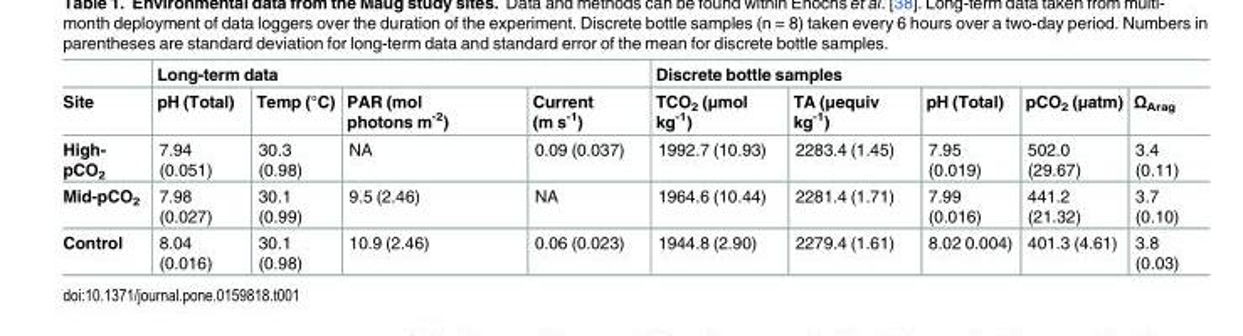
<table><thead><tr><td rowspan="2">Site</td><td colspan="4">Long-term data</td><td colspan="5">Discrete bottle samples</td></tr><tr><td>pH (Total)</td><td>Temp (°C)</td><td>PAR (mol photons m<sup>-2</sup>)</td><td>Current (m s<sup>-1</sup>)</td><td>TCO<sub>2</sub> (μmol kg<sup>-1</sup>)</td><td>TA (μequiv kg<sup>-1</sup>)</td><td>pH (Total)</td><td>pCO<sub>2</sub> (μatm)</td><td>Ω<sub>Arag</sub></td></tr></thead><tbody><tr><td>High- pCO<sub>2</sub></td><td>7.94 (0.051)</td><td>30.3 (0.98)</td><td>NA</td><td>0.09 (0.037)</td><td>1992.7 (10.93)</td><td>2283.4 (1.45)</td><td>7.95 (0.019)</td><td>502.0 (29.67)</td><td>3.4 (0.11)</td></tr><tr><td>Mid-pCO<sub>2</sub></td><td>7.98 (0.027)</td><td>30.1 (0.99)</td><td>9.5 (2.46)</td><td>NA</td><td>1964.6 (10.44)</td><td>2281.4 (1.71)</td><td>7.99 (0.016)</td><td>441.2 (21.32)</td><td>3.7 (0.10)</td></tr><tr><td>Control</td><td>8.04 (0.016)</td><td>30.1 (0.98)</td><td>10.9 (2.46)</td><td>0.06 (0.023)</td><td>1944.8 (2.90)</td><td>2279.4 (1.61)</td><td>8.02 0.004)</td><td>401.3 (4.61)</td><td>3.8 (0.03)</td></tr></tbody></table>